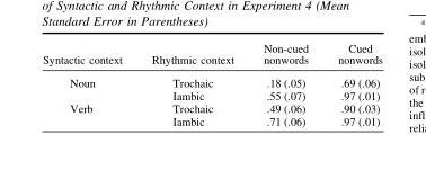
<table><thead><tr><td>Syntactic context</td><td>Rhythmic context</td><td>Non-cued nonwords</td><td>Cued nonwords</td></tr></thead><tbody><tr><td rowspan="2">Noun</td><td>Trochaic</td><td>.18 (.05)</td><td>.69 (.06)</td></tr><tr><td>Iambic</td><td>.55 (.07)</td><td>.97 (.01)</td></tr><tr><td rowspan="2">Verb</td><td>Trochaic</td><td>.49 (.06)</td><td>.90 (.03)</td></tr><tr><td>Iambic</td><td>.71 (.06)</td><td>.97 (.01)</td></tr></tbody></table>